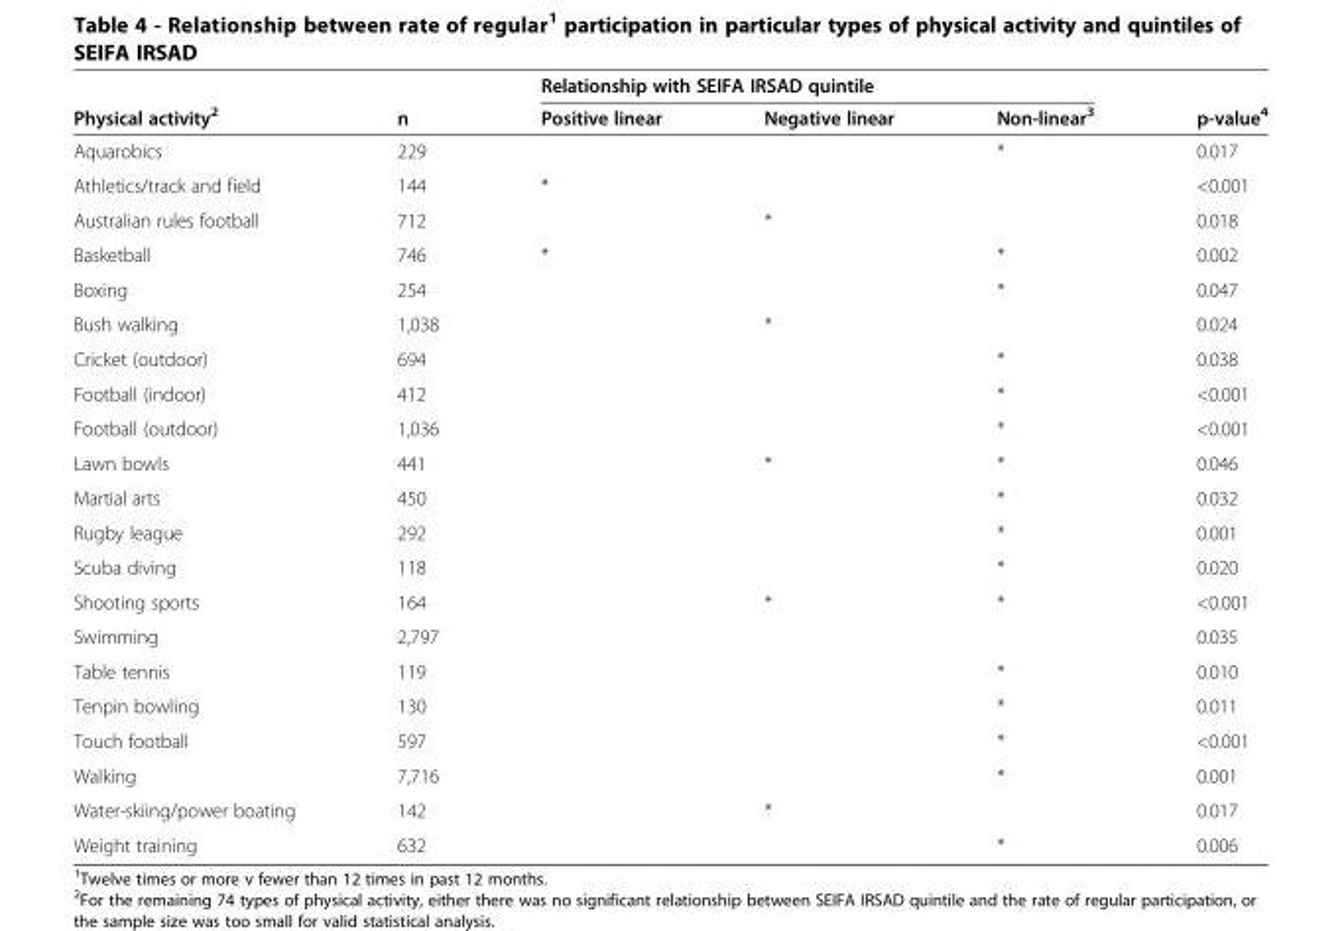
<table><thead><tr><td rowspan="2">Physical activity<sup>2</sup></td><td rowspan="2">n</td><td colspan="3">Relationship with SEIFA IRSAD quintile</td><td rowspan="2">p-value<sup>4</sup></td></tr><tr><td>Positive linear</td><td>Negative linear</td><td>Non-linear<sup>3</sup></td></tr></thead><tbody><tr><td>Aquarobics</td><td>229</td><td></td><td></td><td>*</td><td>0.017</td></tr><tr><td>Athletics/track and field</td><td>144</td><td>*</td><td></td><td></td><td>&lt;0.001</td></tr><tr><td>Australian rules football</td><td>712</td><td></td><td>*</td><td></td><td>0.018</td></tr><tr><td>Basketball</td><td>746</td><td>*</td><td></td><td>*</td><td>0.002</td></tr><tr><td>Boxing</td><td>254</td><td></td><td></td><td>*</td><td>0.047</td></tr><tr><td>Bush walking</td><td>1,038</td><td></td><td>*</td><td></td><td>0.024</td></tr><tr><td>Cricket (outdoor)</td><td>694</td><td></td><td></td><td>*</td><td>0.038</td></tr><tr><td>Football (indoor)</td><td>412</td><td></td><td></td><td>*</td><td>&lt;0.001</td></tr><tr><td>Football (outdoor)</td><td>1,036</td><td></td><td></td><td>*</td><td>&lt;0.001</td></tr><tr><td>Lawn bowls</td><td>441</td><td></td><td>*</td><td>*</td><td>0.046</td></tr><tr><td>Martial arts</td><td>450</td><td></td><td></td><td>*</td><td>0.032</td></tr><tr><td>Rugby league</td><td>292</td><td></td><td></td><td>*</td><td>0.001</td></tr><tr><td>Scuba diving</td><td>118</td><td></td><td></td><td>*</td><td>0.020</td></tr><tr><td>Shooting sports</td><td>164</td><td></td><td>*</td><td>*</td><td>&lt;0.001</td></tr><tr><td>Swimming</td><td>2,797</td><td></td><td></td><td></td><td>0.035</td></tr><tr><td>Table tennis</td><td>119</td><td></td><td></td><td>*</td><td>0.010</td></tr><tr><td>Tenpin bowling</td><td>130</td><td></td><td></td><td>*</td><td>0.011</td></tr><tr><td>Touch football</td><td>597</td><td></td><td></td><td>*</td><td>&lt;0.001</td></tr><tr><td>Walking</td><td>7,716</td><td></td><td></td><td>*</td><td>0.001</td></tr><tr><td>Water-skiing/power boating</td><td>142</td><td></td><td>*</td><td></td><td>0.017</td></tr><tr><td>Weight training</td><td>632</td><td></td><td></td><td>*</td><td>0.006</td></tr></tbody></table>